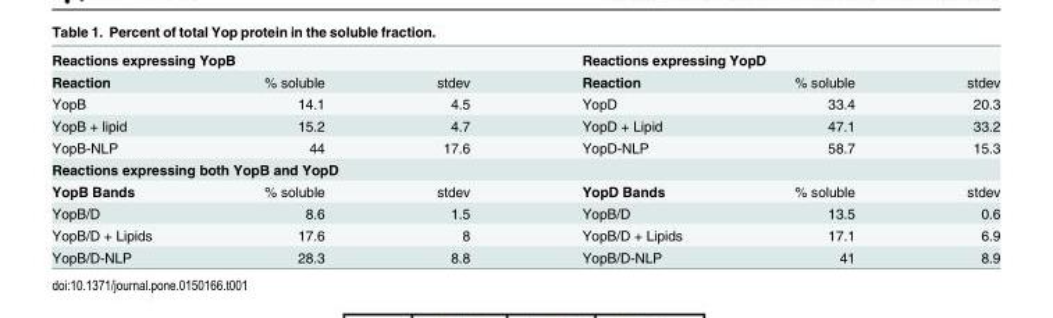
<table><tbody><tr><td colspan="3">Reactions expressing YopB</td><td colspan="3">Reactions expressing YopD</td></tr><tr><td>Reaction</td><td>% soluble</td><td>stdev</td><td>Reaction</td><td>% soluble</td><td>stdev</td></tr><tr><td>YopB</td><td>14.1</td><td>4.5</td><td>YopD</td><td>33.4</td><td>20.3</td></tr><tr><td>YopB + lipid</td><td>15.2</td><td>4.7</td><td>YopD + Lipid</td><td>47.1</td><td>33.2</td></tr><tr><td>YopB-NLP</td><td>44</td><td>17.6</td><td>YopD-NLP</td><td>58.7</td><td>15.3</td></tr><tr><td colspan="6">Reactions expressing both YopB and YopD</td></tr><tr><td>YopB Bands</td><td>% soluble</td><td>stdev</td><td>YopD Bands</td><td>% soluble</td><td>stdev</td></tr><tr><td>YopB/D</td><td>8.6</td><td>1.5</td><td>YopB/D</td><td>13.5</td><td>0.6</td></tr><tr><td>YopB/D + Lipids</td><td>17.6</td><td>8</td><td>YopB/D + Lipids</td><td>17.1</td><td>6.9</td></tr><tr><td>YopB/D-NLP</td><td>28.3</td><td>8.8</td><td>YopB/D-NLP</td><td>41</td><td>8.9</td></tr></tbody></table>